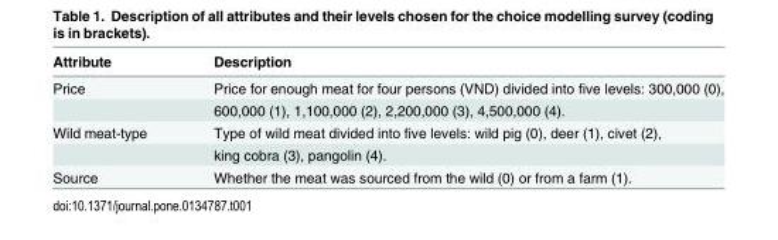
<table><thead><tr><td>Attribute</td><td>Description</td></tr></thead><tbody><tr><td rowspan="2">Price</td><td>Price for enough meat for four persons (VND) divided into five levels: 300,000 (0),</td></tr><tr><td>600,000 (1), 1,100,000 (2), 2,200,000 (3), 4,500,000 (4).</td></tr><tr><td rowspan="2">Wild meat-type</td><td>Type of wild meat divided into five levels: wild pig (0), deer (1), civet (2),</td></tr><tr><td>king cobra (3), pangolin (4).</td></tr><tr><td>Source</td><td>Whether the meat was sourced from the wild (0) or from a farm (1).</td></tr></tbody></table>